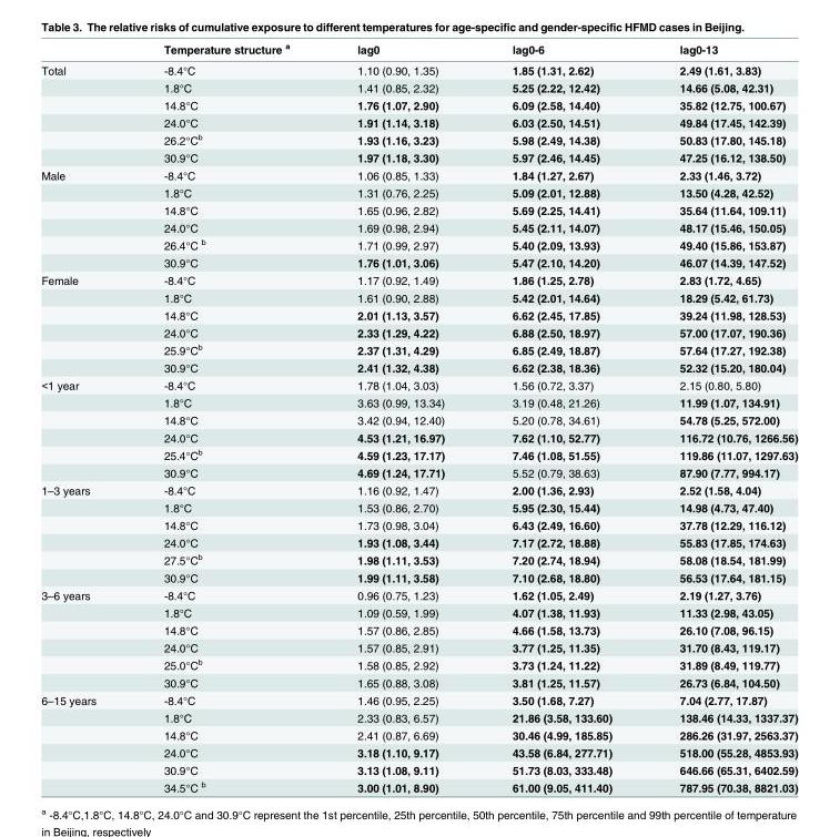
<table><thead><tr><td></td><td>Temperature structure <sup>a</sup></td><td>lag0</td><td>lag0-6</td><td>lag0-13</td></tr></thead><tbody><tr><td rowspan="6">Total</td><td>-8.4°C</td><td>1.10 (0.90, 1.35)</td><td>1.85 (1.31, 2.62)</td><td>2.49 (1.61, 3.83)</td></tr><tr><td>1.8°C</td><td>1.41 (0.85, 2.32)</td><td>5.25 (2.22, 12.42)</td><td>14.66 (5.08, 42.31)</td></tr><tr><td>14.8°C</td><td>1.76 (1.07, 2.90)</td><td>6.09 (2.58, 14.40)</td><td>35.82 (12.75, 100.67)</td></tr><tr><td>24.0°C</td><td>1.91 (1.14, 3.18)</td><td>6.03 (2.50, 14.51)</td><td>49.84 (17.45, 142.39)</td></tr><tr><td>26.2°C<sup>b</sup></td><td>1.93 (1.16, 3.23)</td><td>5.98 (2.49, 14.38)</td><td>50.83 (17.80, 145.18)</td></tr><tr><td>30.9°C</td><td>1.97 (1.18, 3.30)</td><td>5.97 (2.46, 14.45)</td><td>47.25 (16.12, 138.50)</td></tr><tr><td rowspan="6">Male</td><td>-8.4°C</td><td>1.06 (0.85, 1.33)</td><td>1.84 (1.27, 2.67)</td><td>2.33 (1.46, 3.72)</td></tr><tr><td>1.8°C</td><td>1.31 (0.76, 2.25)</td><td>5.09 (2.01, 12.88)</td><td>13.50 (4.28, 42.52)</td></tr><tr><td>14.8°C</td><td>1.65 (0.96, 2.82)</td><td>5.69 (2.25, 14.41)</td><td>35.64 (11.64, 109.11)</td></tr><tr><td>24.0°C</td><td>1.69 (0.98, 2.94)</td><td>5.45 (2.11, 14.07)</td><td>48.17 (15.46, 150.05)</td></tr><tr><td>26.4°C <sup>b</sup></td><td>1.71 (0.99, 2.97)</td><td>5.40 (2.09, 13.93)</td><td>49.40 (15.86, 153.87)</td></tr><tr><td>30.9°C</td><td>1.76 (1.01, 3.06)</td><td>5.47 (2.10, 14.20)</td><td>46.07 (14.39, 147.52)</td></tr><tr><td rowspan="6">Female</td><td>-8.4°C</td><td>1.17 (0.92, 1.49)</td><td>1.86 (1.25, 2.78)</td><td>2.83 (1.72, 4.65)</td></tr><tr><td>1.8°C</td><td>1.61 (0.90, 2.88)</td><td>5.42 (2.01, 14.64)</td><td>18.29 (5.42, 61.73)</td></tr><tr><td>14.8°C</td><td>2.01 (1.13, 3.57)</td><td>6.62 (2.45, 17.85)</td><td>39.24 (11.98, 128.53)</td></tr><tr><td>24.0°C</td><td>2.33 (1.29, 4.22)</td><td>6.88 (2.50, 18.97)</td><td>57.00 (17.07, 190.36)</td></tr><tr><td>25.9°C<sup>b</sup></td><td>2.37 (1.31, 4.29)</td><td>6.85 (2.49, 18.87)</td><td>57.64 (17.27, 192.38)</td></tr><tr><td>30.9°C</td><td>2.41 (1.32, 4.38)</td><td>6.62 (2.38, 18.36)</td><td>52.32 (15.20, 180.04)</td></tr><tr><td rowspan="6">&lt;1 year</td><td>-8.4°C</td><td>1.78 (1.04, 3.03)</td><td>1.56 (0.72, 3.37)</td><td>2.15 (0.80, 5.80)</td></tr><tr><td>1.8°C</td><td>3.63 (0.99, 13.34)</td><td>3.19 (0.48, 21.26)</td><td>11.99 (1.07, 134.91)</td></tr><tr><td>14.8°C</td><td>3.42 (0.94, 12.40)</td><td>5.20 (0.78, 34.61)</td><td>54.78 (5.25, 572.00)</td></tr><tr><td>24.0°C</td><td>4.53 (1.21, 16.97)</td><td>7.62 (1.10, 52.77)</td><td>116.72 (10.76, 1266.56)</td></tr><tr><td>25.4°C<sup>b</sup></td><td>4.59 (1.23, 17.17)</td><td>7.46 (1.08, 51.55)</td><td>119.86 (11.07, 1297.63)</td></tr><tr><td>30.9°C</td><td>4.69 (1.24, 17.71)</td><td>5.52 (0.79, 38.63)</td><td>87.90 (7.77, 994.17)</td></tr><tr><td rowspan="6">1–3 years</td><td>-8.4°C</td><td>1.16 (0.92, 1.47)</td><td>2.00 (1.36, 2.93)</td><td>2.52 (1.58, 4.04)</td></tr><tr><td>1.8°C</td><td>1.53 (0.86, 2.70)</td><td>5.95 (2.30, 15.44)</td><td>14.98 (4.73, 47.40)</td></tr><tr><td>14.8°C</td><td>1.73 (0.98, 3.04)</td><td>6.43 (2.49, 16.60)</td><td>37.78 (12.29, 116.12)</td></tr><tr><td>24.0°C</td><td>1.93 (1.08, 3.44)</td><td>7.17 (2.72, 18.88)</td><td>55.83 (17.85, 174.63)</td></tr><tr><td>27.5°C<sup>b</sup></td><td>1.98 (1.11, 3.53)</td><td>7.20 (2.74, 18.94)</td><td>58.08 (18.54, 181.99)</td></tr><tr><td>30.9°C</td><td>1.99 (1.11, 3.58)</td><td>7.10 (2.68, 18.80)</td><td>56.53 (17.64, 181.15)</td></tr><tr><td rowspan="6">3–6 years</td><td>-8.4°C</td><td>0.96 (0.75, 1.23)</td><td>1.62 (1.05, 2.49)</td><td>2.19 (1.27, 3.76)</td></tr><tr><td>1.8°C</td><td>1.09 (0.59, 1.99)</td><td>4.07 (1.38, 11.93)</td><td>11.33 (2.98, 43.05)</td></tr><tr><td>14.8°C</td><td>1.57 (0.86, 2.85)</td><td>4.66 (1.58, 13.73)</td><td>26.10 (7.08, 96.15)</td></tr><tr><td>24.0°C</td><td>1.57 (0.85, 2.91)</td><td>3.77 (1.25, 11.35)</td><td>31.70 (8.43, 119.17)</td></tr><tr><td>25.0°C<sup>b</sup></td><td>1.58 (0.85, 2.92)</td><td>3.73 (1.24, 11.22)</td><td>31.89 (8.49, 119.77)</td></tr><tr><td>30.9°C</td><td>1.65 (0.88, 3.08)</td><td>3.81 (1.25, 11.57)</td><td>26.73 (6.84, 104.50)</td></tr><tr><td rowspan="6">6–15 years</td><td>-8.4°C</td><td>1.46 (0.95, 2.25)</td><td>3.50 (1.68, 7.27)</td><td>7.04 (2.77, 17.87)</td></tr><tr><td>1.8°C</td><td>2.33 (0.83, 6.57)</td><td>21.86 (3.58, 133.60)</td><td>138.46 (14.33, 1337.37)</td></tr><tr><td>14.8°C</td><td>2.41 (0.87, 6.69)</td><td>30.46 (4.99, 185.85)</td><td>286.26 (31.97, 2563.37)</td></tr><tr><td>24.0°C</td><td>3.18 (1.10, 9.17)</td><td>43.58 (6.84, 277.71)</td><td>518.00 (55.28, 4853.93)</td></tr><tr><td>30.9°C</td><td>3.13 (1.08, 9.11)</td><td>51.73 (8.03, 333.48)</td><td>646.66 (65.31, 6402.59)</td></tr><tr><td>34.5°C <sup>b</sup></td><td>3.00 (1.01, 8.90)</td><td>61.00 (9.05, 411.40)</td><td>787.95 (70.38, 8821.03)</td></tr></tbody></table>